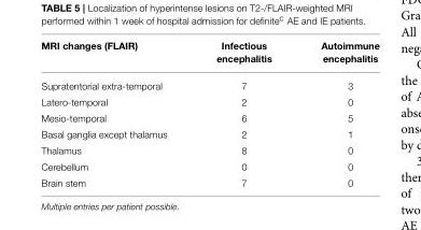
<table><thead><tr><td>MRI changes (FLAIR)</td><td>Infectious encephalitis</td><td>Autoimmune encephalitis</td></tr></thead><tbody><tr><td>Supratentorial extra-temporal</td><td>7</td><td>3</td></tr><tr><td>Latero-temporal</td><td>2</td><td>0</td></tr><tr><td>Mesio-temporal</td><td>6</td><td>5</td></tr><tr><td>Basal ganglia except thalamus</td><td>2</td><td>1</td></tr><tr><td>Thalamus</td><td>8</td><td>0</td></tr><tr><td>Cerebellum</td><td>0</td><td>0</td></tr><tr><td>Brain stem</td><td>7</td><td>0</td></tr></tbody></table>